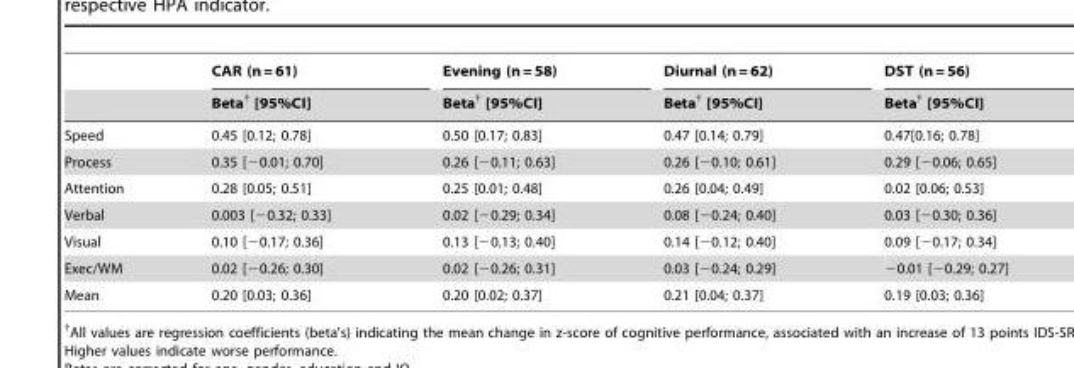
<table><thead><tr><td rowspan="2"></td><td rowspan="2">CAR (n = 61) Beta† [95%CI]</td><td rowspan="2">Evening (n = 58) Beta† [95%CI]</td><td rowspan="2">Diurnal (n = 62) Beta† [95%CI]</td><td rowspan="2">DST (n = 56) Beta† [95%CI]</td></tr><tr></tr></thead><tbody><tr><td>Speed</td><td>0.45 [0.12; 0.78]</td><td>0.50 [0.17; 0.83]</td><td>0.47 [0.14; 0.79]</td><td>0.47[0.16; 0.78]</td></tr><tr><td>Process</td><td>0.35 [−0.01; 0.70]</td><td>0.26 [−0.11; 0.63]</td><td>0.26 [−0.10; 0.61]</td><td>0.29 [−0.06; 0.65]</td></tr><tr><td>Attention</td><td>0.28 [0.05; 0.51]</td><td>0.25 [0.01; 0.48]</td><td>0.26 [0.04; 0.49]</td><td>0.02 [0.06; 0.53]</td></tr><tr><td>Verbal</td><td>0.003 [−0.32; 0.33]</td><td>0.02 [−0.29; 0.34]</td><td>0.08 [−0.24; 0.40]</td><td>0.03 [−0.30; 0.36]</td></tr><tr><td>Visual</td><td>0.10 [−0.17; 0.36]</td><td>0.13 [−0.13; 0.40]</td><td>0.14 [−0.12; 0.40]</td><td>0.09 [−0.17; 0.34]</td></tr><tr><td>Exec/WM</td><td>0.02 [−0.26; 0.30]</td><td>0.02 [−0.26; 0.31]</td><td>0.03 [−0.24; 0.29]</td><td>−0.01 [−0.29; 0.27]</td></tr><tr><td>Mean</td><td>0.20 [0.03; 0.36]</td><td>0.20 [0.02; 0.37]</td><td>0.21 [0.04; 0.37]</td><td>0.19 [0.03; 0.36]</td></tr></tbody></table>